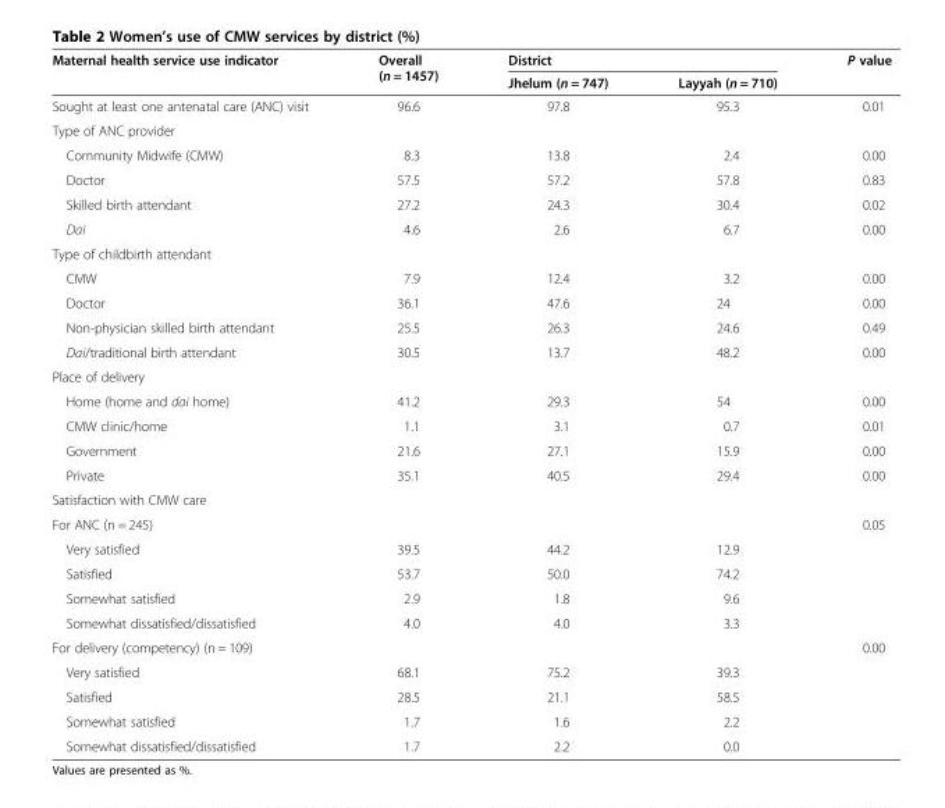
<table><thead><tr><td rowspan="2">Maternal health service use indicator</td><td rowspan="2">Overall (n = 1457)</td><td colspan="2">District</td><td rowspan="2">P value</td></tr><tr><td>Jhelum (n = 747)</td><td>Layyah (n = 710)</td></tr></thead><tbody><tr><td>Sought at least one antenatal care (ANC) visit</td><td>96.6</td><td>97.8</td><td>95.3</td><td>0.01</td></tr><tr><td colspan="5">Type of ANC provider</td></tr><tr><td>Community Midwife (CMW)</td><td>8.3</td><td>13.8</td><td>2.4</td><td>0.00</td></tr><tr><td>Doctor</td><td>57.5</td><td>57.2</td><td>57.8</td><td>0.83</td></tr><tr><td>Skilled birth attendant</td><td>27.2</td><td>24.3</td><td>30.4</td><td>0.02</td></tr><tr><td>Dai</td><td>4.6</td><td>2.6</td><td>6.7</td><td>0.00</td></tr><tr><td colspan="5">Type of childbirth attendant</td></tr><tr><td>CMW</td><td>7.9</td><td>12.4</td><td>3.2</td><td>0.00</td></tr><tr><td>Doctor</td><td>36.1</td><td>47.6</td><td>24</td><td>0.00</td></tr><tr><td>Non-physician skilled birth attendant</td><td>25.5</td><td>26.3</td><td>24.6</td><td>0.49</td></tr><tr><td>Dai/traditional birth attendant</td><td>30.5</td><td>13.7</td><td>48.2</td><td>0.00</td></tr><tr><td colspan="5">Place of delivery</td></tr><tr><td>Home (home and dai home)</td><td>41.2</td><td>29.3</td><td>54</td><td>0.00</td></tr><tr><td>CMW clinic/home</td><td>1.1</td><td>3.1</td><td>0.7</td><td>0.01</td></tr><tr><td>Government</td><td>21.6</td><td>27.1</td><td>15.9</td><td>0.00</td></tr><tr><td>Private</td><td>35.1</td><td>40.5</td><td>29.4</td><td>0.00</td></tr><tr><td colspan="5">Satisfaction with CMW care</td></tr><tr><td>For ANC (n = 245)</td><td></td><td></td><td></td><td>0.05</td></tr><tr><td>Very satisfied</td><td>39.5</td><td>44.2</td><td>12.9</td><td></td></tr><tr><td>Satisfied</td><td>53.7</td><td>50.0</td><td>74.2</td><td></td></tr><tr><td>Somewhat satisfied</td><td>2.9</td><td>1.8</td><td>9.6</td><td></td></tr><tr><td>Somewhat dissatisfied/dissatisfied</td><td>4.0</td><td>4.0</td><td>3.3</td><td></td></tr><tr><td>For delivery (competency) (n = 109)</td><td></td><td></td><td></td><td>0.00</td></tr><tr><td>Very satisfied</td><td>68.1</td><td>75.2</td><td>39.3</td><td></td></tr><tr><td>Satisfied</td><td>28.5</td><td>21.1</td><td>58.5</td><td></td></tr><tr><td>Somewhat satisfied</td><td>1.7</td><td>1.6</td><td>2.2</td><td></td></tr><tr><td>Somewhat dissatisfied/dissatisfied</td><td>1.7</td><td>2.2</td><td>0.0</td><td></td></tr></tbody></table>